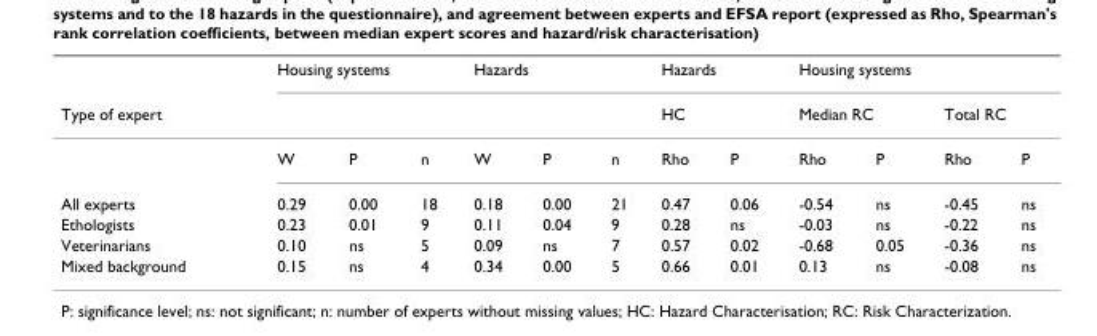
<table><thead><tr><td rowspan="3">Type of expert</td><td colspan="3">Housing systems</td><td colspan="3">Hazards</td><td rowspan="2" colspan="2">Hazards HC</td><td colspan="4">Housing systems</td></tr><tr><td rowspan="2">W</td><td rowspan="2">P</td><td rowspan="2">n</td><td rowspan="2">W</td><td rowspan="2">P</td><td rowspan="2">n</td><td colspan="2">Median RC</td><td colspan="2">Total RC</td></tr><tr><td>Rho</td><td>P</td><td>Rho</td><td>P</td><td>Rho</td><td>P</td></tr></thead><tbody><tr><td>All experts</td><td>0.29</td><td>0.00</td><td>18</td><td>0.18</td><td>0.00</td><td>21</td><td>0.47</td><td>0.06</td><td>-0.54</td><td>ns</td><td>-0.45</td><td>ns</td></tr><tr><td>Ethologists</td><td>0.23</td><td>0.01</td><td>9</td><td>0.11</td><td>0.04</td><td>9</td><td>0.28</td><td>ns</td><td>-0.03</td><td>ns</td><td>-0.22</td><td>ns</td></tr><tr><td>Veterinarians</td><td>0.10</td><td>ns</td><td>5</td><td>0.09</td><td>ns</td><td>7</td><td>0.57</td><td>0.02</td><td>-0.68</td><td>0.05</td><td>-0.36</td><td>ns</td></tr><tr><td>Mixed background</td><td>0.15</td><td>ns</td><td>4</td><td>0.34</td><td>0.00</td><td>5</td><td>0.66</td><td>0.01</td><td>0.13</td><td>ns</td><td>-0.08</td><td>ns</td></tr></tbody></table>